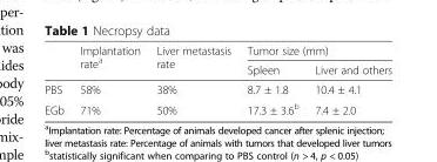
<table><thead><tr><td rowspan="2"></td><td rowspan="2">Implantation rate<sup>a</sup></td><td rowspan="2">Liver metastasis rate</td><td colspan="2">Tumor size (mm)</td></tr><tr><td>Spleen</td><td>Liver and others</td></tr></thead><tbody><tr><td>PBS</td><td>58%</td><td>38%</td><td>8.7 ± 1.8</td><td>10.4 ± 4.1</td></tr><tr><td>EGb</td><td>71%</td><td>50%</td><td>17.3 ± 3.6<sup>b</sup></td><td>7.4 ± 2.0</td></tr></tbody></table>